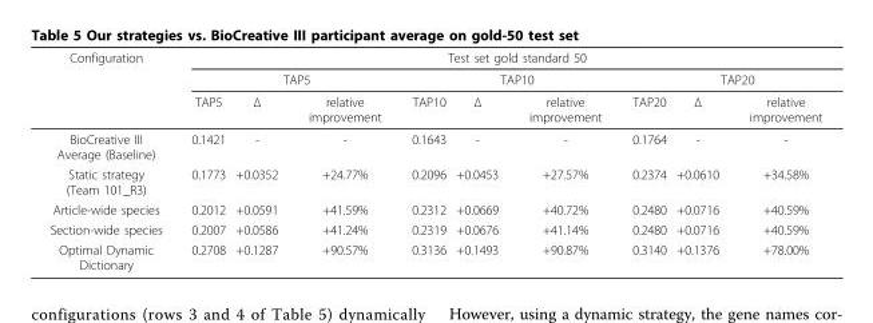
<table><thead><tr><td rowspan="3">Configuration</td><td colspan="9">Test set gold standard 50</td></tr><tr><td colspan="3">TAP5</td><td colspan="3">TAP10</td><td colspan="3">TAP20</td></tr><tr><td>TAP5</td><td>Δ</td><td>relative improvement</td><td>TAP10</td><td>Δ</td><td>relative improvement</td><td>TAP20</td><td>Δ</td><td>relative improvement</td></tr></thead><tbody><tr><td>BioCreative III Average (Baseline)</td><td>0.1421</td><td>-</td><td>-</td><td>0.1643</td><td>-</td><td>-</td><td>0.1764</td><td>-</td><td>-</td></tr><tr><td>Static strategy (Team 101_R3)</td><td>0.1773</td><td>+0.0352</td><td>+24.77%</td><td>0.2096</td><td>+0.0453</td><td>+27.57%</td><td>0.2374</td><td>+0.0610</td><td>+34.58%</td></tr><tr><td>Article-wide species</td><td>0.2012</td><td>+0.0591</td><td>+41.59%</td><td>0.2312</td><td>+0.0669</td><td>+40.72%</td><td>0.2480</td><td>+0.0716</td><td>+40.59%</td></tr><tr><td>Section-wide species</td><td>0.2007</td><td>+0.0586</td><td>+41.24%</td><td>0.2319</td><td>+0.0676</td><td>+41.14%</td><td>0.2480</td><td>+0.0716</td><td>+40.59%</td></tr><tr><td>Optimal Dynamic Dictionary</td><td>0.2708</td><td>+0.1287</td><td>+90.57%</td><td>0.3136</td><td>+0.1493</td><td>+90.87%</td><td>0.3140</td><td>+0.1376</td><td>+78.00%</td></tr></tbody></table>